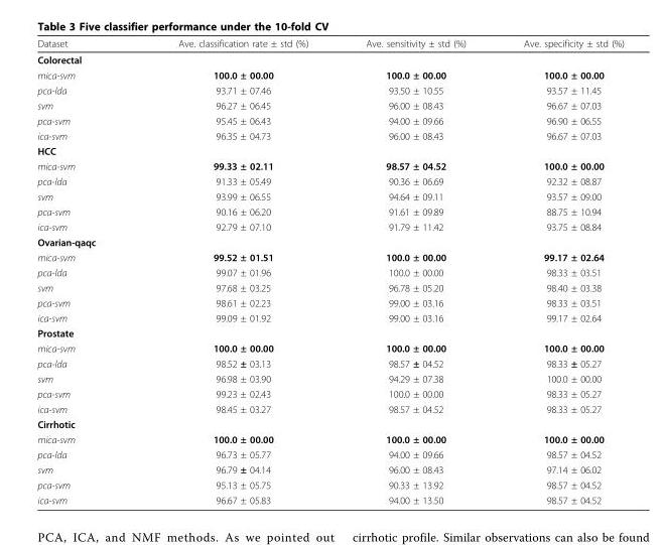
<table><thead><tr><td>Dataset</td><td>Ave. classification rate ± std (%)</td><td>Ave. sensitivity ± std (%)</td><td>Ave. specificity ± std (%)</td></tr></thead><tbody><tr><td colspan="4">Colorectal</td></tr><tr><td>mica-svm</td><td>100.0 ± 00.00</td><td>100.0 ± 00.00</td><td>100.0 ± 00.00</td></tr><tr><td>pca-lda</td><td>93.71 ± 07.46</td><td>93.50 ± 10.55</td><td>93.57 ± 11.45</td></tr><tr><td>svm</td><td>96.27 ± 06.45</td><td>96.00 ± 08.43</td><td>96.67 ± 07.03</td></tr><tr><td>pca-svm</td><td>95.45 ± 06.43</td><td>94.00 ± 09.66</td><td>96.90 ± 06.55</td></tr><tr><td>ica-svm</td><td>96.35 ± 04.73</td><td>96.00 ± 08.43</td><td>96.67 ± 07.03</td></tr><tr><td colspan="4">HCC</td></tr><tr><td>mica-svm</td><td>99.33 ± 02.11</td><td>98.57 ± 04.52</td><td>100.0 ± 00.00</td></tr><tr><td>pca-lda</td><td>91.33 ± 05.49</td><td>90.36 ± 06.69</td><td>92.32 ± 08.87</td></tr><tr><td>svm</td><td>93.99 ± 06.55</td><td>94.64 ± 09.11</td><td>93.57 ± 09.00</td></tr><tr><td>pca-svm</td><td>90.16 ± 06.20</td><td>91.61 ± 09.89</td><td>88.75 ± 10.94</td></tr><tr><td>ica-svm</td><td>92.79 ± 07.10</td><td>91.79 ± 11.42</td><td>93.75 ± 08.84</td></tr><tr><td colspan="4">Ovarian-qaqc</td></tr><tr><td>mica-svm</td><td>99.52 ± 01.51</td><td>100.0 ± 00.00</td><td>99.17 ± 02.64</td></tr><tr><td>pca-lda</td><td>99.07 ± 01.96</td><td>100.0 ± 00.00</td><td>98.33 ± 03.51</td></tr><tr><td>svm</td><td>97.68 ± 03.25</td><td>96.78 ± 05.20</td><td>98.40 ± 03.38</td></tr><tr><td>pca-svm</td><td>98.61 ± 02.23</td><td>99.00 ± 03.16</td><td>98.33 ± 03.51</td></tr><tr><td>ica-svm</td><td>99.09 ± 01.92</td><td>99.00 ± 03.16</td><td>99.17 ± 02.64</td></tr><tr><td colspan="4">Prostate</td></tr><tr><td>mica-svm</td><td>100.0 ± 00.00</td><td>100.0 ± 00.00</td><td>100.0 ± 00.00</td></tr><tr><td>pca-lda</td><td>98.52 ± 03.13</td><td>98.57 ± 04.52</td><td>98.33 ± 05.27</td></tr><tr><td>svm</td><td>96.98 ± 03.90</td><td>94.29 ± 07.38</td><td>100.0 ± 00.00</td></tr><tr><td>pca-svm</td><td>99.23 ± 02.43</td><td>100.0 ± 00.00</td><td>98.33 ± 05.27</td></tr><tr><td>ica-svm</td><td>98.45 ± 03.27</td><td>98.57 ± 04.52</td><td>98.33 ± 05.27</td></tr><tr><td colspan="4">Cirrhotic</td></tr><tr><td>mica-svm</td><td>100.0 ± 00.00</td><td>100.0 ± 00.00</td><td>100.0 ± 00.00</td></tr><tr><td>pca-lda</td><td>96.73 ± 05.77</td><td>94.00 ± 09.66</td><td>98.57 ± 04.52</td></tr><tr><td>svm</td><td>96.79 ± 04.14</td><td>96.00 ± 08.43</td><td>97.14 ± 06.02</td></tr><tr><td>pca-svm</td><td>95.13 ± 05.75</td><td>90.33 ± 13.92</td><td>98.57 ± 04.52</td></tr><tr><td>ica-svm</td><td>96.67 ± 05.83</td><td>94.00 ± 13.50</td><td>98.57 ± 04.52</td></tr></tbody></table>